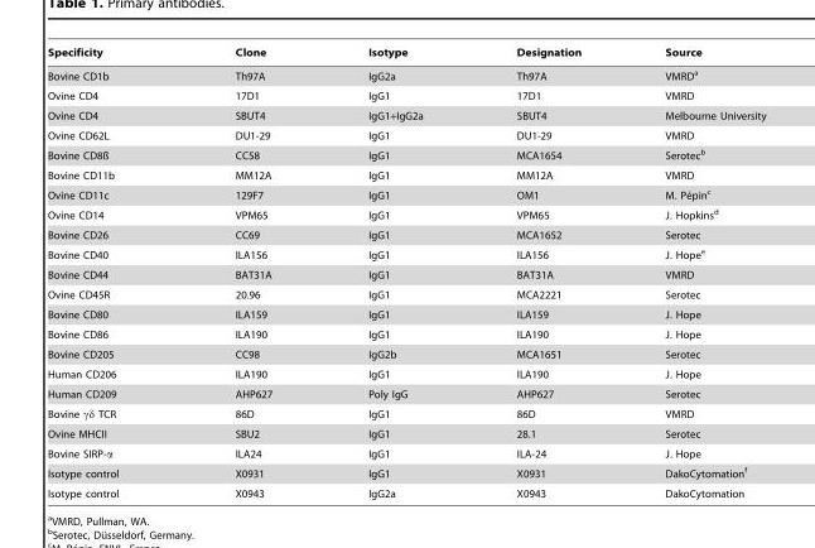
<table><thead><tr><td>Specificity</td><td>Clone</td><td>Isotype</td><td>Designation</td><td>Source</td></tr></thead><tbody><tr><td>Bovine CD1b</td><td>Th97A</td><td>IgG2a</td><td>Th97A</td><td>VMRD<sup>a</sup></td></tr><tr><td>Ovine CD4</td><td>17D1</td><td>IgG1</td><td>17D1</td><td>VMRD</td></tr><tr><td>Ovine CD4</td><td>SBUT4</td><td>IgG1+IgG2a</td><td>SBUT4</td><td>Melbourne University</td></tr><tr><td>Ovine CD62L</td><td>DU1-29</td><td>IgG1</td><td>DU1-29</td><td>VMRD</td></tr><tr><td>Bovine CD8ß</td><td>CC58</td><td>IgG1</td><td>MCA1654</td><td>Serotec<sup>b</sup></td></tr><tr><td>Bovine CD11b</td><td>MM12A</td><td>IgG1</td><td>MM12A</td><td>VMRD</td></tr><tr><td>Ovine CD11c</td><td>129F7</td><td>IgG1</td><td>OM1</td><td>M. Pe´pinc</td></tr><tr><td>Ovine CD14</td><td>VPM65</td><td>IgG1</td><td>VPM65</td><td>J. Hopkins<sup>d</sup></td></tr><tr><td>Bovine CD26</td><td>CC69</td><td>IgG1</td><td>MCA1652</td><td>Serotec</td></tr><tr><td>Bovine CD40</td><td>ILA156</td><td>IgG1</td><td>ILA156</td><td>J. Hope<sup>e</sup></td></tr><tr><td>Bovine CD44</td><td>BAT31A</td><td>IgG1</td><td>BAT31A</td><td>VMRD</td></tr><tr><td>Ovine CD45R</td><td>20.96</td><td>IgG1</td><td>MCA2221</td><td>Serotec</td></tr><tr><td>Bovine CD80</td><td>ILA159</td><td>IgG1</td><td>ILA159</td><td>J. Hope</td></tr><tr><td>Bovine CD86</td><td>ILA190</td><td>IgG1</td><td>ILA190</td><td>J. Hope</td></tr><tr><td>Bovine CD205</td><td>CC98</td><td>IgG2b</td><td>MCA1651</td><td>Serotec</td></tr><tr><td>Human CD206</td><td>ILA190</td><td>IgG1</td><td>ILA190</td><td>J. Hope</td></tr><tr><td>Human CD209</td><td>AHP627</td><td>Poly IgG</td><td>AHP627</td><td>Serotec</td></tr><tr><td>Bovine γδ TCR</td><td>86D</td><td>IgG1</td><td>86D</td><td>VMRD</td></tr><tr><td>Ovine MHCII</td><td>SBU2</td><td>IgG1</td><td>28.1</td><td>Serotec</td></tr><tr><td>Bovine SIRP-α</td><td>ILA24</td><td>IgG1</td><td>ILA-24</td><td>J. Hope</td></tr><tr><td>Isotype control</td><td>X0931</td><td>IgG1</td><td>X0931</td><td>DakoCytomation<sup>f</sup></td></tr><tr><td>Isotype control</td><td>X0943</td><td>IgG2a</td><td>X0943</td><td>DakoCytomation</td></tr></tbody></table>